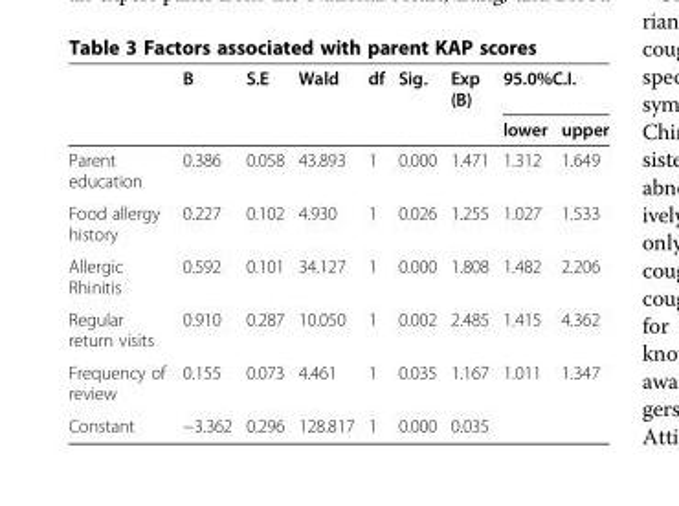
<table><thead><tr><td rowspan="2"></td><td rowspan="2">B</td><td rowspan="2">S.E</td><td rowspan="2">Wald</td><td rowspan="2">df</td><td rowspan="2">Sig.</td><td rowspan="2">Exp (B)</td><td colspan="2">95.0%C.I.</td></tr><tr><td>lower</td><td>upper</td></tr></thead><tbody><tr><td>Parent education</td><td>0.386</td><td>0.058</td><td>43.893</td><td>1</td><td>0.000</td><td>1.471</td><td>1.312</td><td>1.649</td></tr><tr><td>Food allergy history</td><td>0.227</td><td>0.102</td><td>4.930</td><td>1</td><td>0.026</td><td>1.255</td><td>1.027</td><td>1.533</td></tr><tr><td>Allergic Rhinitis</td><td>0.592</td><td>0.101</td><td>34.127</td><td>1</td><td>0.000</td><td>1.808</td><td>1.482</td><td>2.206</td></tr><tr><td>Regular return visits</td><td>0.910</td><td>0.287</td><td>10.050</td><td>1</td><td>0.002</td><td>2.485</td><td>1.415</td><td>4.362</td></tr><tr><td>Frequency of review</td><td>0.155</td><td>0.073</td><td>4.461</td><td>1</td><td>0.035</td><td>1.167</td><td>1.011</td><td>1.347</td></tr><tr><td>Constant</td><td>−3.362</td><td>0.296</td><td>128.817</td><td>1</td><td>0.000</td><td>0.035</td><td></td><td></td></tr></tbody></table>